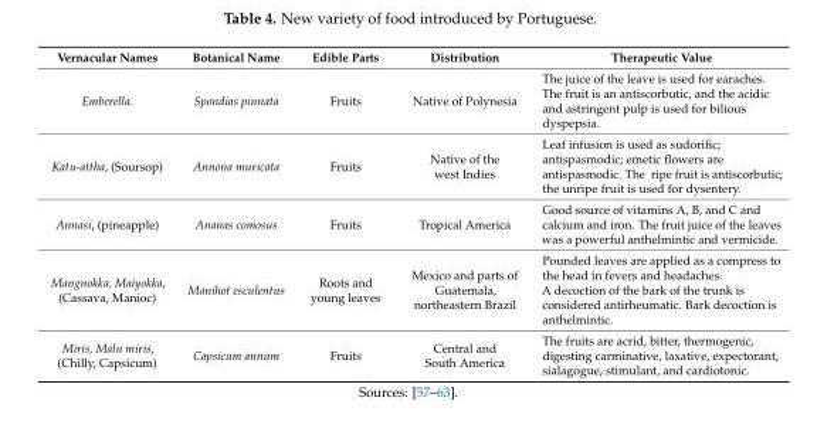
<table><thead><tr><td>Vernacular Names</td><td>Botanical Name</td><td>Edible Parts</td><td>Distribution</td><td>Therapeutic Value</td></tr></thead><tbody><tr><td>Emberella.</td><td>Spondias pinnata</td><td>Fruits</td><td>Native of Polynesia</td><td>The juice of the leave is used for earaches. The fruit is an antiscorbutic, and the acidic and astringent pulp is used for bilious dyspepsia.</td></tr><tr><td>Katu-attha, (Soursop)</td><td>Annona muricata</td><td>Fruits</td><td>Native of the west Indies</td><td>Leaf infusion is used as sudorific; antispasmodic; emetic flowers are antispasmodic. The ripe fruit is antiscorbutic; the unripe fruit is used for dysentery.</td></tr><tr><td>Annasi, (pineapple)</td><td>Ananas comosus</td><td>Fruits</td><td>Tropical America</td><td>Good source of vitamins A, B, and C and calcium and iron. The fruit juice of the leaves was a powerful anthelmintic and vermicide.</td></tr><tr><td>Mangnokka, Maiyokka, (Cassava, Manioc)</td><td>Manihot esculentus</td><td>Roots and young leaves</td><td>Mexico and parts of Guatemala, northeastern Brazil</td><td>Pounded leaves are applied as a compress to the head in fevers and headaches. A decoction of the bark of the trunk is considered antirheumatic. Bark decoction is anthelmintic.</td></tr><tr><td>Miris, Malu miris, (Chilly, Capsicum)</td><td>Capsicum annum</td><td>Fruits</td><td>Central and South America</td><td>The fruits are acrid, bitter, thermogenic, digesting carminative, laxative, expectorant, sialagogue, stimulant, and cardiotonic.</td></tr></tbody></table>